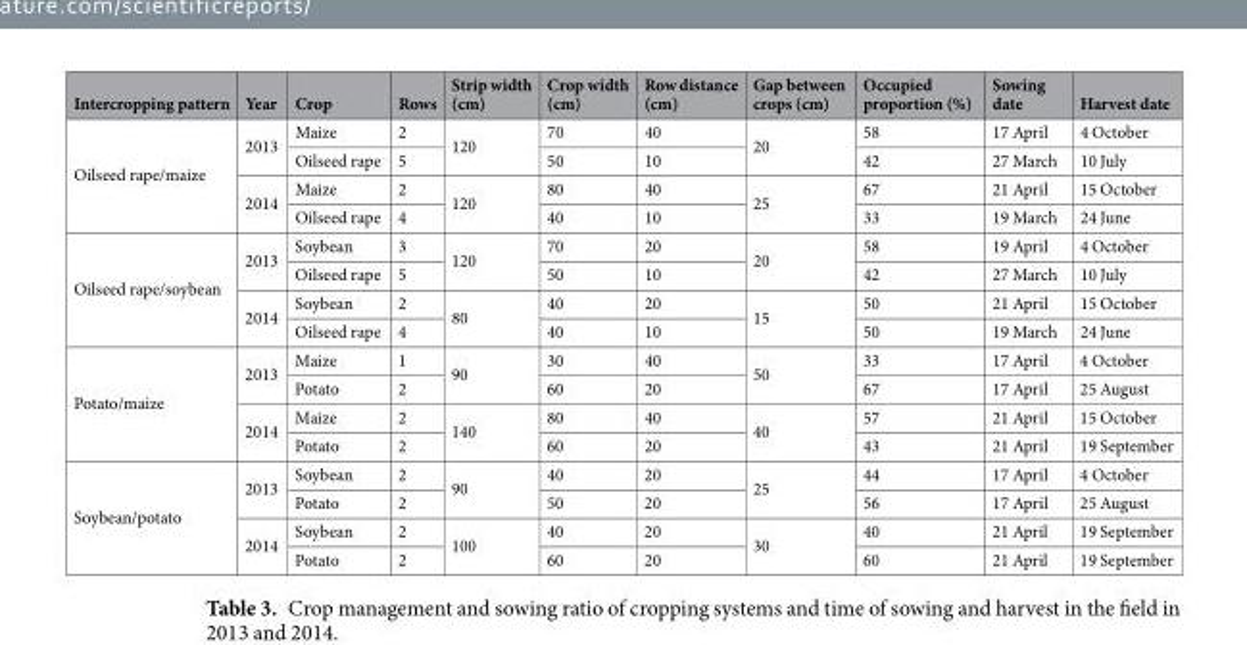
<table><thead><tr><td>Intercropping pattern</td><td>Year</td><td>Crop</td><td>Rows</td><td>Strip width (cm)</td><td>Crop width (cm)</td><td>Row distance (cm)</td><td>Gap between crops (cm)</td><td>Occupied proportion (%)</td><td>Sowing date</td><td>Harvest date</td></tr></thead><tbody><tr><td rowspan="4">Oilseed rape/maize</td><td rowspan="2">2013</td><td>Maize</td><td>2</td><td rowspan="2">120</td><td>70</td><td>40</td><td rowspan="2">20</td><td>58</td><td>17 April</td><td>4 October</td></tr><tr><td>Oilseed rape</td><td>5</td><td>50</td><td>10</td><td>42</td><td>27 March</td><td>10 July</td></tr><tr><td rowspan="2">2014</td><td>Maize</td><td>2</td><td rowspan="2">120</td><td>80</td><td>40</td><td rowspan="2">25</td><td>67</td><td>21 April</td><td>15 October</td></tr><tr><td>Oilseed rape</td><td>4</td><td>40</td><td>10</td><td>33</td><td>19 March</td><td>24 June</td></tr><tr><td rowspan="4">Oilseed rape/soybean</td><td rowspan="2">2013</td><td>Soybean</td><td>3</td><td rowspan="2">120</td><td>70</td><td>20</td><td rowspan="2">20</td><td>58</td><td>19 April</td><td>4 October</td></tr><tr><td>Oilseed rape</td><td>5</td><td>50</td><td>10</td><td>42</td><td>27 March</td><td>10 July</td></tr><tr><td rowspan="2">2014</td><td>Soybean</td><td>2</td><td rowspan="2">80</td><td>40</td><td>20</td><td rowspan="2">15</td><td>50</td><td>21 April</td><td>15 October</td></tr><tr><td>Oilseed rape</td><td>4</td><td>40</td><td>10</td><td>50</td><td>19 March</td><td>24 June</td></tr><tr><td rowspan="4">Potato/maize</td><td rowspan="2">2013</td><td>Maize</td><td>1</td><td rowspan="2">90</td><td>30</td><td>40</td><td rowspan="2">50</td><td>33</td><td>17 April</td><td>4 October</td></tr><tr><td>Potato</td><td>2</td><td>60</td><td>20</td><td>67</td><td>17 April</td><td>25 August</td></tr><tr><td rowspan="2">2014</td><td>Maize</td><td>2</td><td rowspan="2">140</td><td>80</td><td>40</td><td rowspan="2">40</td><td>57</td><td>21 April</td><td>15 October</td></tr><tr><td>Potato</td><td>2</td><td>60</td><td>20</td><td>43</td><td>21 April</td><td>19 September</td></tr><tr><td rowspan="4">Soybean/potato</td><td rowspan="2">2013</td><td>Soybean</td><td>2</td><td rowspan="2">90</td><td>40</td><td>20</td><td rowspan="2">25</td><td>44</td><td>17 April</td><td>4 October</td></tr><tr><td>Potato</td><td>2</td><td>50</td><td>20</td><td>56</td><td>17 April</td><td>25 August</td></tr><tr><td rowspan="2">2014</td><td>Soybean</td><td>2</td><td rowspan="2">100</td><td>40</td><td>20</td><td rowspan="2">30</td><td>40</td><td>21 April</td><td>19 September</td></tr><tr><td>Potato</td><td>2</td><td>60</td><td>20</td><td>60</td><td>21 April</td><td>19 September</td></tr></tbody></table>